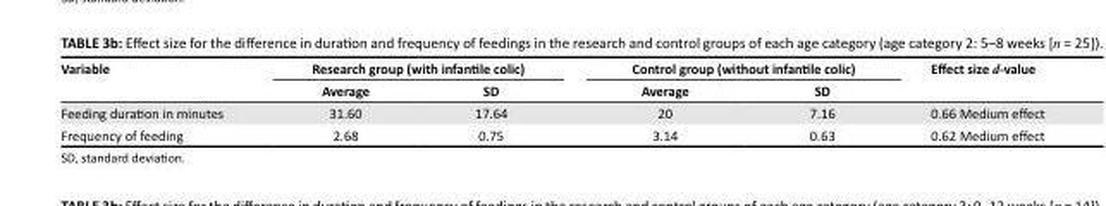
<table><thead><tr><td rowspan="2">Variable</td><td colspan="2">Research group (with infantile colic)</td><td colspan="2">Control group (without infantile colic)</td><td rowspan="2">Effect size d-value</td></tr><tr><td>Average</td><td>SD</td><td>Average</td><td>SD</td></tr></thead><tbody><tr><td>Feeding duration in minutes</td><td>31.60</td><td>17.64</td><td>20</td><td>7.16</td><td>0.66 Medium effect</td></tr><tr><td>Frequency of feeding</td><td>2.68</td><td>0.75</td><td>3.14</td><td>0.63</td><td>0.62 Medium effect</td></tr></tbody></table>